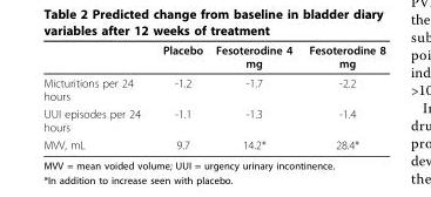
<table><thead><tr><td></td><td>Placebo</td><td>Fesoterodine 4 mg</td><td>Fesoterodine 8 mg</td></tr></thead><tbody><tr><td>Micturitions per 24 hours</td><td>-1.2</td><td>-1.7</td><td>-2.2</td></tr><tr><td>UUI episodes per 24 hours</td><td>-1.1</td><td>-1.3</td><td>-1.4</td></tr><tr><td>MVV, mL</td><td>9.7</td><td>14.2*</td><td>28.4*</td></tr></tbody></table>